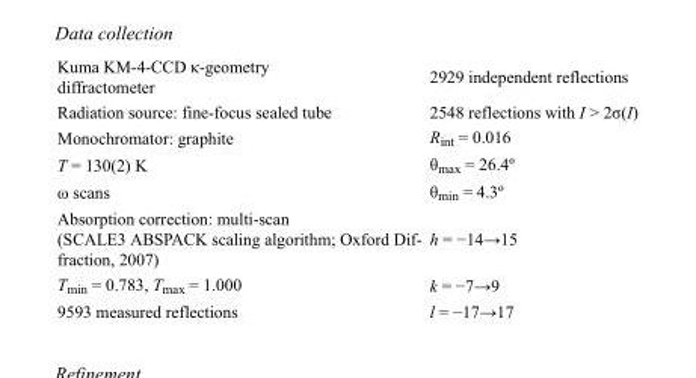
<table><tbody><tr><td>Kuma KM-4-CCD κ-geometry diffractometer</td><td>2929 independent reflections</td></tr><tr><td>Radiation source: fine-focus sealed tube</td><td>2548 reflections with I &gt; 2σ(I)</td></tr><tr><td>Monochromator: graphite</td><td>R<sub>int</sub> = 0.016</td></tr><tr><td>T = 130(2) K</td><td>θ<sub>max</sub> = 26.4º</td></tr><tr><td>ω scans</td><td>θ<sub>min</sub> = 4.3º</td></tr><tr><td>Absorption correction: multi-scan (SCALE3 ABSPACK scaling algorithm; Oxford Dif- fraction, 2007)</td><td>h = −14→15</td></tr><tr><td>T<sub>min</sub> = 0.783, T<sub>max</sub> = 1.000</td><td>k = −7→9</td></tr><tr><td>9593 measured reflections</td><td>l = −17→17</td></tr></tbody></table>